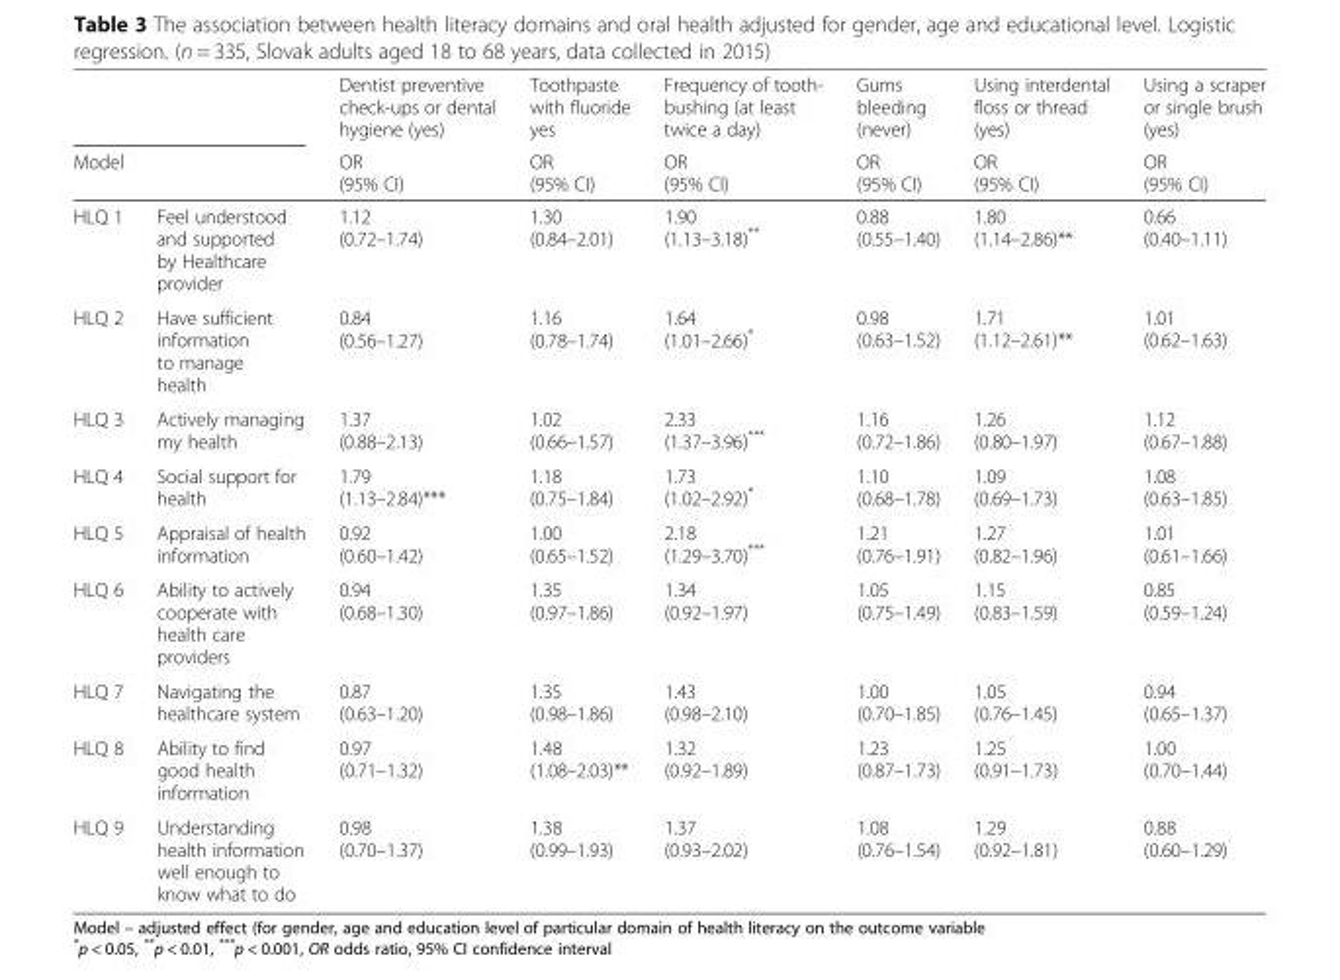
<table><thead><tr><td></td><td></td><td rowspan="2">Dentist preventive check-ups or dental hygiene (yes) OR (95% CI)</td><td rowspan="2">Toothpaste with fluoride yes OR (95% CI)</td><td rowspan="2">Frequency of tooth- bushing (at least twice a day) OR (95% CI)</td><td rowspan="2">Gums bleeding (never) OR (95% CI)</td><td rowspan="2">Using interdental floss or thread (yes) OR (95% CI)</td><td rowspan="2">Using a scraper or single brush (yes) OR (95% CI)</td></tr><tr><td colspan="2">Model</td></tr></thead><tbody><tr><td>HLQ 1</td><td>Feel understood and supported by Healthcare provider</td><td>1.12 (0.72–1.74)</td><td>1.30 (0.84–2.01)</td><td>1.90 (1.13–3.18)**</td><td>0.88 (0.55–1.40)</td><td>1.80 (1.14–2.86)**</td><td>0.66 (0.40–1.11)</td></tr><tr><td>HLQ 2</td><td>Have sufficient information to manage health</td><td>0.84 (0.56–1.27)</td><td>1.16 (0.78–1.74)</td><td>1.64 (1.01–2.66)*</td><td>0.98 (0.63–1.52)</td><td>1.71 (1.12–2.61)**</td><td>1.01 (0.62–1.63)</td></tr><tr><td>HLQ 3</td><td>Actively managing my health</td><td>1.37 (0.88–2.13)</td><td>1.02 (0.66–1.57)</td><td>2.33 (1.37–3.96)***</td><td>1.16 (0.72–1.86)</td><td>1.26 (0.80–1.97)</td><td>1.12 (0.67–1.88)</td></tr><tr><td>HLQ 4</td><td>Social support for health</td><td>1.79 (1.13–2.84)***</td><td>1.18 (0.75–1.84)</td><td>1.73 (1.02–2.92)*</td><td>1.10 (0.68–1.78)</td><td>1.09 (0.69–1.73)</td><td>1.08 (0.63–1.85)</td></tr><tr><td>HLQ 5</td><td>Appraisal of health information</td><td>0.92 (0.60–1.42)</td><td>1.00 (0.65–1.52)</td><td>2.18 (1.29–3.70)***</td><td>1.21 (0.76–1.91)</td><td>1.27 (0.82–1.96)</td><td>1.01 (0.61–1.66)</td></tr><tr><td>HLQ 6</td><td>Ability to actively cooperate with health care providers</td><td>0.94 (0.68–1.30)</td><td>1.35 (0.97–1.86)</td><td>1.34 (0.92–1.97)</td><td>1.05 (0.75–1.49)</td><td>1.15 (0.83–1.59)</td><td>0.85 (0.59–1.24)</td></tr><tr><td>HLQ 7</td><td>Navigating the healthcare system</td><td>0.87 (0.63–1.20)</td><td>1.35 (0.98–1.86)</td><td>1.43 (0.98–2.10)</td><td>1.00 (0.70–1.85)</td><td>1.05 (0.76–1.45)</td><td>0.94 (0.65–1.37)</td></tr><tr><td>HLQ 8</td><td>Ability to find good health information</td><td>0.97 (0.71–1.32)</td><td>1.48 (1.08–2.03)**</td><td>1.32 (0.92–1.89)</td><td>1.23 (0.87–1.73)</td><td>1.25 (0.91–1.73)</td><td>1.00 (0.70–1.44)</td></tr><tr><td>HLQ 9</td><td>Understanding health information well enough to know what to do</td><td>0.98 (0.70–1.37)</td><td>1.38 (0.99–1.93)</td><td>1.37 (0.93–2.02)</td><td>1.08 (0.76–1.54)</td><td>1.29 (0.92–1.81)</td><td>0.88 (0.60–1.29)</td></tr></tbody></table>